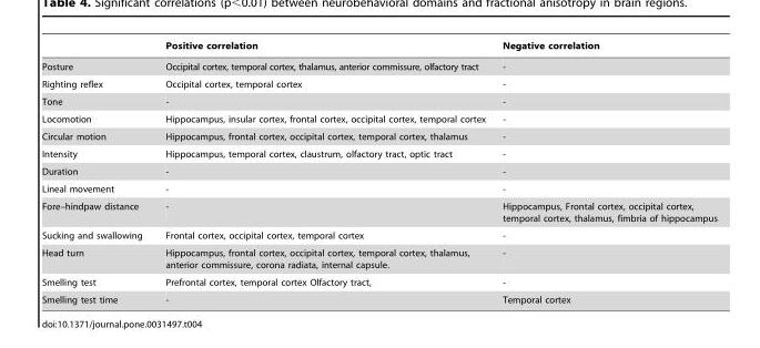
<table><thead><tr><td></td><td>Positive correlation</td><td>Negative correlation</td></tr></thead><tbody><tr><td>Posture</td><td>Occipital cortex, temporal cortex, thalamus, anterior commissure, olfactory tract</td><td>-</td></tr><tr><td>Righting reflex</td><td>Occipital cortex, temporal cortex</td><td>-</td></tr><tr><td>Tone</td><td>-</td><td>-</td></tr><tr><td>Locomotion</td><td>Hippocampus, insular cortex, frontal cortex, occipital cortex, temporal cortex</td><td>-</td></tr><tr><td>Circular motion</td><td>Hippocampus, frontal cortex, occipital cortex, temporal cortex, thalamus</td><td>-</td></tr><tr><td>Intensity</td><td>Hippocampus, temporal cortex, claustrum, olfactory tract, optic tract</td><td>-</td></tr><tr><td>Duration</td><td>-</td><td>-</td></tr><tr><td>Lineal movement</td><td>-</td><td>-</td></tr><tr><td>Fore–hindpaw distance</td><td>-</td><td>Hippocampus, Frontal cortex, occipital cortex, temporal cortex, thalamus, fimbria of hippocampus</td></tr><tr><td>Sucking and swallowing</td><td>Frontal cortex, occipital cortex, temporal cortex</td><td>-</td></tr><tr><td>Head turn</td><td>Hippocampus, frontal cortex, occipital cortex, temporal cortex, thalamus, anterior commissure, corona radiata, internal capsule.</td><td>-</td></tr><tr><td>Smelling test</td><td>Prefrontal cortex, temporal cortex Olfactory tract,</td><td>-</td></tr><tr><td>Smelling test time</td><td>-</td><td>Temporal cortex</td></tr></tbody></table>